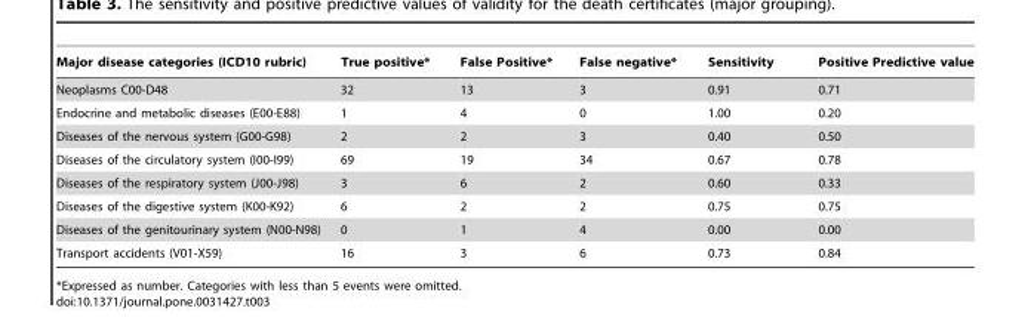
<table><thead><tr><td>Major disease categories (ICD10 rubric)</td><td>True positive*</td><td>False Positive*</td><td>False negative*</td><td>Sensitivity</td><td>Positive Predictive value</td></tr></thead><tbody><tr><td>Neoplasms C00-D48</td><td>32</td><td>13</td><td>3</td><td>0.91</td><td>0.71</td></tr><tr><td>Endocrine and metabolic diseases (E00-E88)</td><td>1</td><td>4</td><td>0</td><td>1.00</td><td>0.20</td></tr><tr><td>Diseases of the nervous system (G00-G98)</td><td>2</td><td>2</td><td>3</td><td>0.40</td><td>0.50</td></tr><tr><td>Diseases of the circulatory system (I00-I99)</td><td>69</td><td>19</td><td>34</td><td>0.67</td><td>0.78</td></tr><tr><td>Diseases of the respiratory system (J00-J98)</td><td>3</td><td>6</td><td>2</td><td>0.60</td><td>0.33</td></tr><tr><td>Diseases of the digestive system (K00-K92)</td><td>6</td><td>2</td><td>2</td><td>0.75</td><td>0.75</td></tr><tr><td>Diseases of the genitourinary system (N00-N98)</td><td>0</td><td>1</td><td>4</td><td>0.00</td><td>0.00</td></tr><tr><td>Transport accidents (V01-X59)</td><td>16</td><td>3</td><td>6</td><td>0.73</td><td>0.84</td></tr></tbody></table>